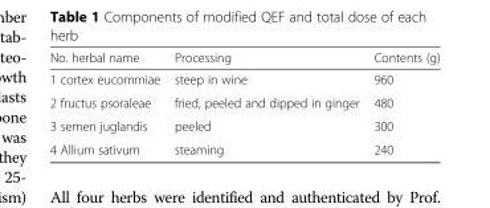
<table><thead><tr><td>No. herbal name</td><td>Processing</td><td>Contents (g)</td></tr></thead><tbody><tr><td>1 cortex eucommiae</td><td>steep in wine</td><td>960</td></tr><tr><td>2 fructus psoraleae</td><td>fried, peeled and dipped in ginger</td><td>480</td></tr><tr><td>3 semen juglandis</td><td>peeled</td><td>300</td></tr><tr><td>4 Allium sativum</td><td>steaming</td><td>240</td></tr></tbody></table>